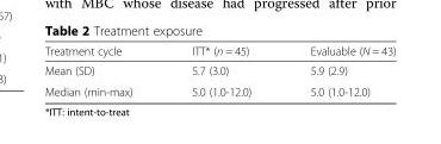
<table><thead><tr><td>Treatment cycle</td><td>ITT* (n = 45)</td><td>Evaluable (N = 43)</td></tr></thead><tbody><tr><td>Mean (SD)</td><td>5.7 (3.0)</td><td>5.9 (2.9)</td></tr><tr><td>Median (min-max)</td><td>5.0 (1.0-12.0)</td><td>5.0 (1.0-12.0)</td></tr></tbody></table>